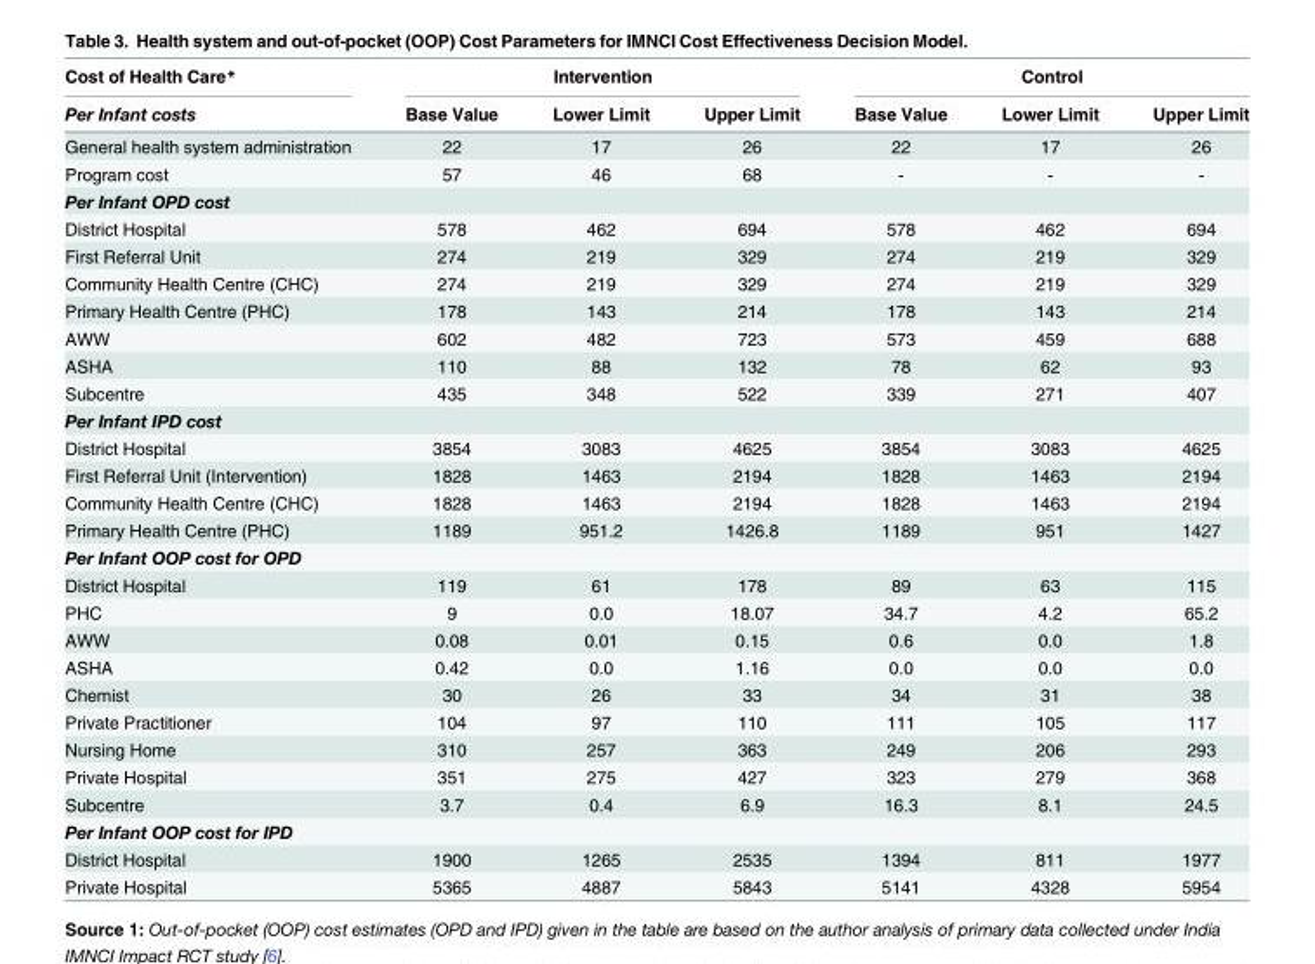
<table><thead><tr><td rowspan="2">Cost of Health Care* Per Infant costs</td><td colspan="3">Intervention</td><td colspan="3">Control</td></tr><tr><td>Base Value</td><td>Lower Limit</td><td>Upper Limit</td><td>Base Value</td><td>Lower Limit</td><td>Upper Limit</td></tr></thead><tbody><tr><td>General health system administration</td><td>22</td><td>17</td><td>26</td><td>22</td><td>17</td><td>26</td></tr><tr><td>Program cost</td><td>57</td><td>46</td><td>68</td><td>-</td><td>-</td><td>-</td></tr><tr><td colspan="7">Per Infant OPD cost</td></tr><tr><td>District Hospital</td><td>578</td><td>462</td><td>694</td><td>578</td><td>462</td><td>694</td></tr><tr><td>First Referral Unit</td><td>274</td><td>219</td><td>329</td><td>274</td><td>219</td><td>329</td></tr><tr><td>Community Health Centre (CHC)</td><td>274</td><td>219</td><td>329</td><td>274</td><td>219</td><td>329</td></tr><tr><td>Primary Health Centre (PHC)</td><td>178</td><td>143</td><td>214</td><td>178</td><td>143</td><td>214</td></tr><tr><td>AWW</td><td>602</td><td>482</td><td>723</td><td>573</td><td>459</td><td>688</td></tr><tr><td>ASHA</td><td>110</td><td>88</td><td>132</td><td>78</td><td>62</td><td>93</td></tr><tr><td>Subcentre</td><td>435</td><td>348</td><td>522</td><td>339</td><td>271</td><td>407</td></tr><tr><td colspan="7">Per Infant IPD cost</td></tr><tr><td>District Hospital</td><td>3854</td><td>3083</td><td>4625</td><td>3854</td><td>3083</td><td>4625</td></tr><tr><td>First Referral Unit (Intervention)</td><td>1828</td><td>1463</td><td>2194</td><td>1828</td><td>1463</td><td>2194</td></tr><tr><td>Community Health Centre (CHC)</td><td>1828</td><td>1463</td><td>2194</td><td>1828</td><td>1463</td><td>2194</td></tr><tr><td>Primary Health Centre (PHC)</td><td>1189</td><td>951.2</td><td>1426.8</td><td>1189</td><td>951</td><td>1427</td></tr><tr><td colspan="7">Per Infant OOP cost for OPD</td></tr><tr><td>District Hospital</td><td>119</td><td>61</td><td>178</td><td>89</td><td>63</td><td>115</td></tr><tr><td>PHC</td><td>9</td><td>0.0</td><td>18.07</td><td>34.7</td><td>4.2</td><td>65.2</td></tr><tr><td>AWW</td><td>0.08</td><td>0.01</td><td>0.15</td><td>0.6</td><td>0.0</td><td>1.8</td></tr><tr><td>ASHA</td><td>0.42</td><td>0.0</td><td>1.16</td><td>0.0</td><td>0.0</td><td>0.0</td></tr><tr><td>Chemist</td><td>30</td><td>26</td><td>33</td><td>34</td><td>31</td><td>38</td></tr><tr><td>Private Practitioner</td><td>104</td><td>97</td><td>110</td><td>111</td><td>105</td><td>117</td></tr><tr><td>Nursing Home</td><td>310</td><td>257</td><td>363</td><td>249</td><td>206</td><td>293</td></tr><tr><td>Private Hospital</td><td>351</td><td>275</td><td>427</td><td>323</td><td>279</td><td>368</td></tr><tr><td>Subcentre</td><td>3.7</td><td>0.4</td><td>6.9</td><td>16.3</td><td>8.1</td><td>24.5</td></tr><tr><td colspan="7">Per Infant OOP cost for IPD</td></tr><tr><td>District Hospital</td><td>1900</td><td>1265</td><td>2535</td><td>1394</td><td>811</td><td>1977</td></tr><tr><td>Private Hospital</td><td>5365</td><td>4887</td><td>5843</td><td>5141</td><td>4328</td><td>5954</td></tr></tbody></table>